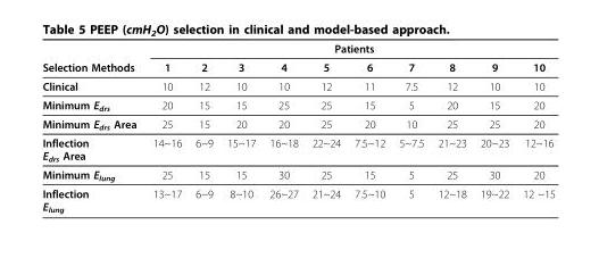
<table><thead><tr><td rowspan="2">Selection Methods</td><td colspan="10">Patients</td></tr><tr><td>1</td><td>2</td><td>3</td><td>4</td><td>5</td><td>6</td><td>7</td><td>8</td><td>9</td><td>10</td></tr></thead><tbody><tr><td>Clinical</td><td>10</td><td>12</td><td>10</td><td>10</td><td>12</td><td>11</td><td>7.5</td><td>12</td><td>10</td><td>10</td></tr><tr><td>Minimum E<sub>drs</sub></td><td>20</td><td>15</td><td>15</td><td>25</td><td>25</td><td>15</td><td>5</td><td>20</td><td>15</td><td>20</td></tr><tr><td>Minimum E<sub>drs</sub> Area</td><td>25</td><td>15</td><td>20</td><td>20</td><td>25</td><td>20</td><td>10</td><td>25</td><td>25</td><td>20</td></tr><tr><td>Inflection E<sub>drs</sub> Area</td><td>14~16</td><td>6~9</td><td>15~17</td><td>16~18</td><td>22~24</td><td>7.5~12</td><td>5~7.5</td><td>21~23</td><td>20~23</td><td>12~16</td></tr><tr><td>Minimum E<sub>lung</sub></td><td>25</td><td>15</td><td>15</td><td>30</td><td>25</td><td>15</td><td>5</td><td>25</td><td>30</td><td>20</td></tr><tr><td>Inflection E<sub>lung</sub></td><td>13~17</td><td>6~9</td><td>8~10</td><td>26~27</td><td>21~24</td><td>7.5~10</td><td>5</td><td>12~18</td><td>19~22</td><td>12 ~15</td></tr></tbody></table>